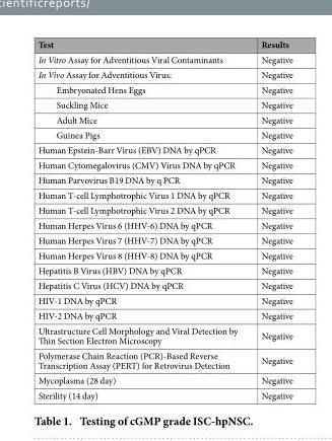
<table><thead><tr><td>Test</td><td>Results</td></tr></thead><tbody><tr><td>In Vitro Assay for Adventitious Viral Contaminants</td><td>Negative</td></tr><tr><td>In Vivo Assay for Adventitious Virus:</td><td>Negative</td></tr><tr><td>Embryonated Hens Eggs</td><td>Negative</td></tr><tr><td>Suckling Mice</td><td>Negative</td></tr><tr><td>Adult Mice</td><td>Negative</td></tr><tr><td>Guinea Pigs</td><td>Negative</td></tr><tr><td>Human Epstein-Barr Virus (EBV) DNA by qPCR</td><td>Negative</td></tr><tr><td>Human Cytomegalovirus (CMV) Virus DNA by qPCR</td><td>Negative</td></tr><tr><td>Human Parvovirus B19 DNA by q PCR</td><td>Negative</td></tr><tr><td>Human T-cell Lymphotrophic Virus 1 DNA by qPCR</td><td>Negative</td></tr><tr><td>Human T-cell Lymphotrophic Virus 2 DNA by qPCR</td><td>Negative</td></tr><tr><td>Human Herpes Virus 6 (HHV-6) DNA by qPCR</td><td>Negative</td></tr><tr><td>Human Herpes Virus 7 (HHV-7) DNA by qPCR</td><td>Negative</td></tr><tr><td>Human Herpes Virus 8 (HHV-8) DNA by qPCR</td><td>Negative</td></tr><tr><td>Hepatitis B Virus (HBV) DNA by qPCR</td><td>Negative</td></tr><tr><td>Hepatitis C Virus (HCV) DNA by qPCR</td><td>Negative</td></tr><tr><td>HIV-1 DNA by qPCR</td><td>Negative</td></tr><tr><td>HIV-2 DNA by qPCR</td><td>Negative</td></tr><tr><td>Ultrastructure Cell Morphology and Viral Detection by Thin Section Electron Microscopy</td><td>Negative</td></tr><tr><td>Polymerase Chain Reaction (PCR)-Based Reverse Transcription Assay (PERT) for Retrovirus Detection</td><td>Negative</td></tr><tr><td>Mycoplasma (28 day)</td><td>Negative</td></tr><tr><td>Sterility (14 day)</td><td>Negative</td></tr></tbody></table>